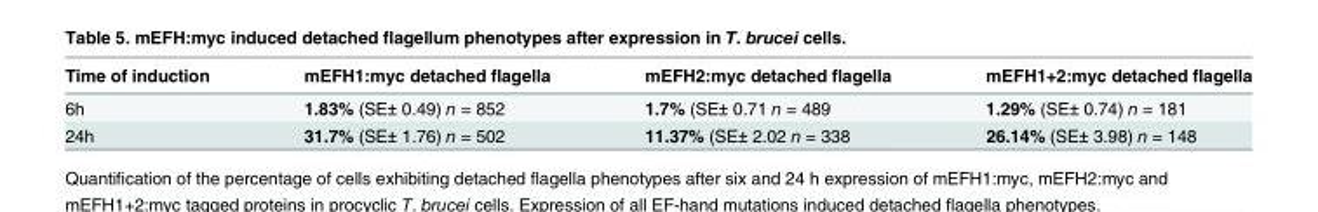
<table><thead><tr><td>Time of induction</td><td>mEFH1:myc detached flagella</td><td>mEFH2:myc detached flagella</td><td>mEFH1+2:myc detached flagella</td></tr></thead><tbody><tr><td>6h</td><td>1.83% (SE± 0.49) n = 852</td><td>1.7% (SE± 0.71 n = 489</td><td>1.29% (SE± 0.74) n = 181</td></tr><tr><td>24h</td><td>31.7% (SE± 1.76) n = 502</td><td>11.37% (SE± 2.02 n = 338</td><td>26.14% (SE± 3.98) n = 148</td></tr></tbody></table>